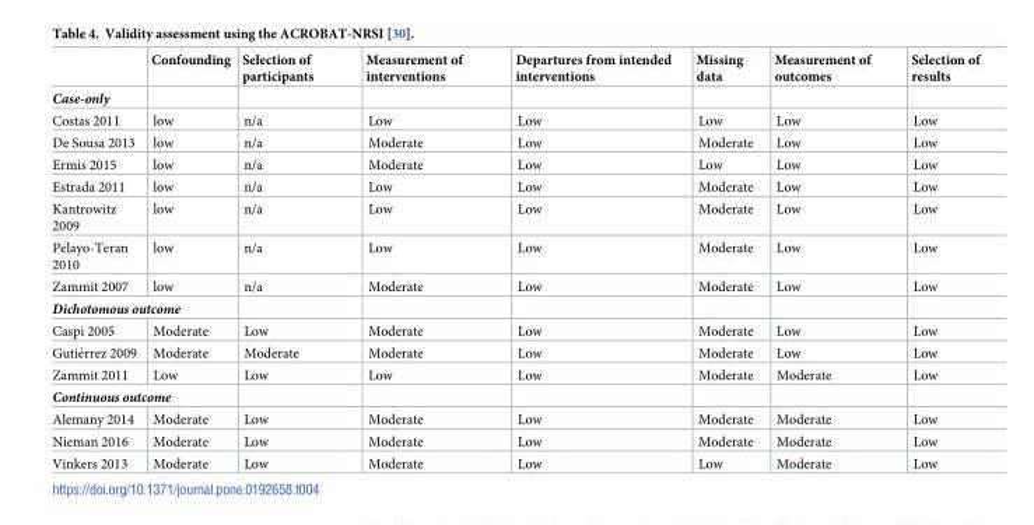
<table><thead><tr><td></td><td>Confounding</td><td>Selection of participants</td><td>Measurement of interventions</td><td>Departures from intended interventions</td><td>Missing data</td><td>Measurement of outcomes</td><td>Selection of results</td></tr></thead><tbody><tr><td colspan="8">Case-only</td></tr><tr><td>Costas 2011</td><td>low</td><td>n/a</td><td>Low</td><td>Low</td><td>Low</td><td>Low</td><td>Low</td></tr><tr><td>De Sousa 2013</td><td>low</td><td>n/a</td><td>Moderate</td><td>Low</td><td>Moderate</td><td>Low</td><td>Low</td></tr><tr><td>Ermis 2015</td><td>low</td><td>n/a</td><td>Moderate</td><td>Low</td><td>Low</td><td>Low</td><td>Low</td></tr><tr><td>Estrada 2011</td><td>low</td><td>n/a</td><td>Low</td><td>Low</td><td>Moderate</td><td>Low</td><td>Low</td></tr><tr><td>Kantrowitz 2009</td><td>low</td><td>n/a</td><td>Low</td><td>Low</td><td>Moderate</td><td>Low</td><td>Low</td></tr><tr><td>Pelayo-Teran 2010</td><td>low</td><td>n/a</td><td>Low</td><td>Low</td><td>Moderate</td><td>Low</td><td>Low</td></tr><tr><td>Zammit 2007</td><td>low</td><td>n/a</td><td>Moderate</td><td>Low</td><td>Moderate</td><td>Low</td><td>Low</td></tr><tr><td colspan="8">Dichotomous outcome</td></tr><tr><td>Caspi 2005</td><td>Moderate</td><td>Low</td><td>Moderate</td><td>Low</td><td>Moderate</td><td>Low</td><td>Low</td></tr><tr><td>Gutie´rrez 2009</td><td>Moderate</td><td>Moderate</td><td>Moderate</td><td>Low</td><td>Moderate</td><td>Low</td><td>Low</td></tr><tr><td>Zammit 2011</td><td>Low</td><td>Low</td><td>Low</td><td>Low</td><td>Moderate</td><td>Moderate</td><td>Low</td></tr><tr><td colspan="8">Continuous outcome</td></tr><tr><td>Alemany 2014</td><td>Moderate</td><td>Low</td><td>Moderate</td><td>Low</td><td>Moderate</td><td>Moderate</td><td>Low</td></tr><tr><td>Nieman 2016</td><td>Moderate</td><td>Low</td><td>Moderate</td><td>Low</td><td>Moderate</td><td>Moderate</td><td>Low</td></tr><tr><td>Vinkers 2013</td><td>Moderate</td><td>Low</td><td>Moderate</td><td>Low</td><td>Low</td><td>Moderate</td><td>Low</td></tr></tbody></table>